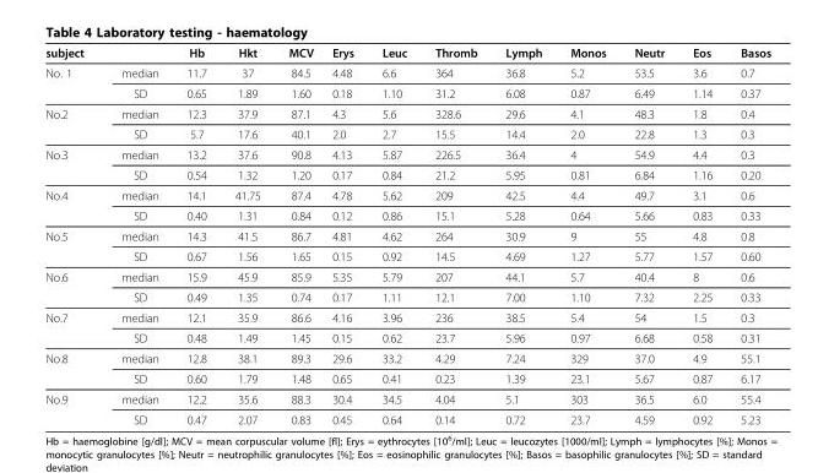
<table><thead><tr><td>subject</td><td></td><td>Hb</td><td>Hkt</td><td>MCV</td><td>Erys</td><td>Leuc</td><td>Thromb</td><td>Lymph</td><td>Monos</td><td>Neutr</td><td>Eos</td><td>Basos</td></tr></thead><tbody><tr><td rowspan="2">No. 1</td><td>median</td><td>11.7</td><td>37</td><td>84.5</td><td>4.48</td><td>6.6</td><td>364</td><td>36.8</td><td>5.2</td><td>53.5</td><td>3.6</td><td>0.7</td></tr><tr><td>SD</td><td>0.65</td><td>1.89</td><td>1.60</td><td>0.18</td><td>1.10</td><td>31.2</td><td>6.08</td><td>0.87</td><td>6.49</td><td>1.14</td><td>0.37</td></tr><tr><td rowspan="2">No.2</td><td>median</td><td>12.3</td><td>37.9</td><td>87.1</td><td>4.3</td><td>5.6</td><td>328.6</td><td>29.6</td><td>4.1</td><td>48.3</td><td>1.8</td><td>0.4</td></tr><tr><td>SD</td><td>5.7</td><td>17.6</td><td>40.1</td><td>2.0</td><td>2.7</td><td>15.5</td><td>14.4</td><td>2.0</td><td>22.8</td><td>1.3</td><td>0.3</td></tr><tr><td rowspan="2">No.3</td><td>median</td><td>13.2</td><td>37.6</td><td>90.8</td><td>4.13</td><td>5.87</td><td>226.5</td><td>36.4</td><td>4</td><td>54.9</td><td>4.4</td><td>0.3</td></tr><tr><td>SD</td><td>0.54</td><td>1.32</td><td>1.20</td><td>0.17</td><td>0.84</td><td>21.2</td><td>5.95</td><td>0.81</td><td>6.84</td><td>1.16</td><td>0.20</td></tr><tr><td rowspan="2">No.4</td><td>median</td><td>14.1</td><td>41.75</td><td>87.4</td><td>4.78</td><td>5.62</td><td>209</td><td>42.5</td><td>4.4</td><td>49.7</td><td>3.1</td><td>0.6</td></tr><tr><td>SD</td><td>0.40</td><td>1.31</td><td>0.84</td><td>0.12</td><td>0.86</td><td>15.1</td><td>5.28</td><td>0.64</td><td>5.66</td><td>0.83</td><td>0.33</td></tr><tr><td rowspan="2">No.5</td><td>median</td><td>14.3</td><td>41.5</td><td>86.7</td><td>4.81</td><td>4.62</td><td>264</td><td>30.9</td><td>9</td><td>55</td><td>4.8</td><td>0.8</td></tr><tr><td>SD</td><td>0.67</td><td>1.56</td><td>1.65</td><td>0.15</td><td>0.92</td><td>14.5</td><td>4.69</td><td>1.27</td><td>5.77</td><td>1.57</td><td>0.60</td></tr><tr><td rowspan="2">No.6</td><td>median</td><td>15.9</td><td>45.9</td><td>85.9</td><td>5.35</td><td>5.79</td><td>207</td><td>44.1</td><td>5.7</td><td>40.4</td><td>8</td><td>0.6</td></tr><tr><td>SD</td><td>0.49</td><td>1.35</td><td>0.74</td><td>0.17</td><td>1.11</td><td>12.1</td><td>7.00</td><td>1.10</td><td>7.32</td><td>2.25</td><td>0.33</td></tr><tr><td rowspan="2">No.7</td><td>median</td><td>12.1</td><td>35.9</td><td>86.6</td><td>4.16</td><td>3.96</td><td>236</td><td>38.5</td><td>5.4</td><td>54</td><td>1.5</td><td>0.3</td></tr><tr><td>SD</td><td>0.48</td><td>1.49</td><td>1.45</td><td>0.15</td><td>0.62</td><td>23.7</td><td>5.96</td><td>0.97</td><td>6.68</td><td>0.58</td><td>0.31</td></tr><tr><td rowspan="2">No.8</td><td>median</td><td>12.8</td><td>38.1</td><td>89.3</td><td>29.6</td><td>33.2</td><td>4.29</td><td>7.24</td><td>329</td><td>37.0</td><td>4.9</td><td>55.1</td></tr><tr><td>SD</td><td>0.60</td><td>1.79</td><td>1.48</td><td>0.65</td><td>0.41</td><td>0.23</td><td>1.39</td><td>23.1</td><td>5.67</td><td>0.87</td><td>6.17</td></tr><tr><td rowspan="2">No.9</td><td>median</td><td>12.2</td><td>35.6</td><td>88.3</td><td>30.4</td><td>34.5</td><td>4.04</td><td>5.1</td><td>303</td><td>36.5</td><td>6.0</td><td>55.4</td></tr><tr><td>SD</td><td>0.47</td><td>2.07</td><td>0.83</td><td>0.45</td><td>0.64</td><td>0.14</td><td>0.72</td><td>23.7</td><td>4.59</td><td>0.92</td><td>5.23</td></tr></tbody></table>